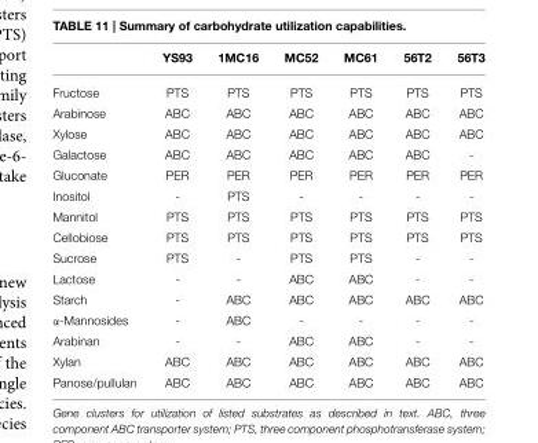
<table><thead><tr><td></td><td>YS93</td><td>1MC16</td><td>MC52</td><td>MC61</td><td>56T2</td><td>56T3</td></tr></thead><tbody><tr><td>Fructose</td><td>PTS</td><td>PTS</td><td>PTS</td><td>PTS</td><td>PTS</td><td>PTS</td></tr><tr><td>Arabinose</td><td>ABC</td><td>ABC</td><td>ABC</td><td>ABC</td><td>ABC</td><td>ABC</td></tr><tr><td>Xylose</td><td>ABC</td><td>ABC</td><td>ABC</td><td>ABC</td><td>ABC</td><td>ABC</td></tr><tr><td>Galactose</td><td>ABC</td><td>ABC</td><td>ABC</td><td>ABC</td><td>ABC</td><td>-</td></tr><tr><td>Gluconate</td><td>PER</td><td>PER</td><td>PER</td><td>PER</td><td>PER</td><td>PER</td></tr><tr><td>Inositol</td><td>-</td><td>PTS</td><td>-</td><td>-</td><td>-</td><td>-</td></tr><tr><td>Mannitol</td><td>PTS</td><td>PTS</td><td>PTS</td><td>PTS</td><td>PTS</td><td>PTS</td></tr><tr><td>Cellobiose</td><td>PTS</td><td>PTS</td><td>PTS</td><td>PTS</td><td>PTS</td><td>PTS</td></tr><tr><td>Sucrose</td><td>PTS</td><td>-</td><td>PTS</td><td>PTS</td><td>-</td><td>-</td></tr><tr><td>Lactose</td><td>-</td><td>-</td><td>ABC</td><td>ABC</td><td>-</td><td>-</td></tr><tr><td>Starch</td><td>-</td><td>ABC</td><td>ABC</td><td>ABC</td><td>ABC</td><td>ABC</td></tr><tr><td>α-Mannosides</td><td>-</td><td>ABC</td><td>-</td><td>-</td><td>-</td><td>-</td></tr><tr><td>Arabinan</td><td>-</td><td>-</td><td>ABC</td><td>ABC</td><td>-</td><td>-</td></tr><tr><td>Xylan</td><td>ABC</td><td>ABC</td><td>ABC</td><td>ABC</td><td>ABC</td><td>ABC</td></tr><tr><td>Panose/pullulan</td><td>ABC</td><td>ABC</td><td>ABC</td><td>ABC</td><td>ABC</td><td>ABC</td></tr></tbody></table>